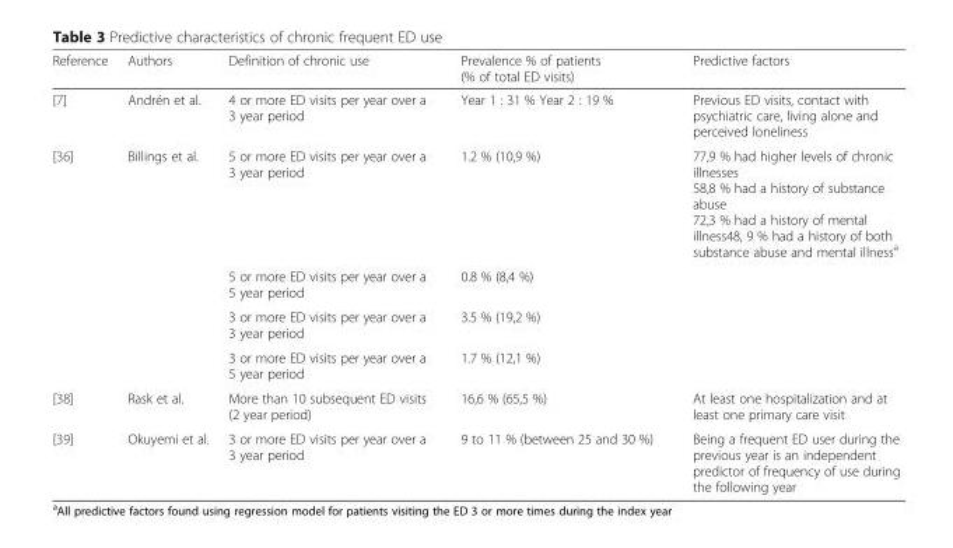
<table><thead><tr><td>Reference</td><td>Authors</td><td>Definition of chronic use</td><td>Prevalence % of patients (% of total ED visits)</td><td>Predictive factors</td></tr></thead><tbody><tr><td>[7]</td><td>Andrén et al.</td><td>4 or more ED visits per year over a 3 year period</td><td>Year 1 : 31 % Year 2 : 19 %</td><td>Previous ED visits, contact with psychiatric care, living alone and perceived loneliness</td></tr><tr><td rowspan="4">[36]</td><td>Billings et al.</td><td>5 or more ED visits per year over a 3 year period</td><td>1.2 % (10,9 %)</td><td>77,9 % had higher levels of chronic illnesses 58,8 % had a history of substance abuse 72,3 % had a history of mental illness48, 9 % had a history of both substance abuse and mental illness<sup>a</sup></td></tr><tr><td></td><td>5 or more ED visits per year over a 5 year period</td><td>0.8 % (8,4 %)</td><td></td></tr><tr><td></td><td>3 or more ED visits per year over a 3 year period</td><td>3.5 % (19,2 %)</td><td></td></tr><tr><td></td><td>3 or more ED visits per year over a 5 year period</td><td>1.7 % (12,1 %)</td><td></td></tr><tr><td>[38]</td><td>Rask et al.</td><td>More than 10 subsequent ED visits (2 year period)</td><td>16,6 % (65,5 %)</td><td>At least one hospitalization and at least one primary care visit</td></tr><tr><td>[39]</td><td>Okuyemi et al.</td><td>3 or more ED visits per year over a 3 year period</td><td>9 to 11 % (between 25 and 30 %)</td><td>Being a frequent ED user during the previous year is an independent predictor of frequency of use during the following year</td></tr></tbody></table>